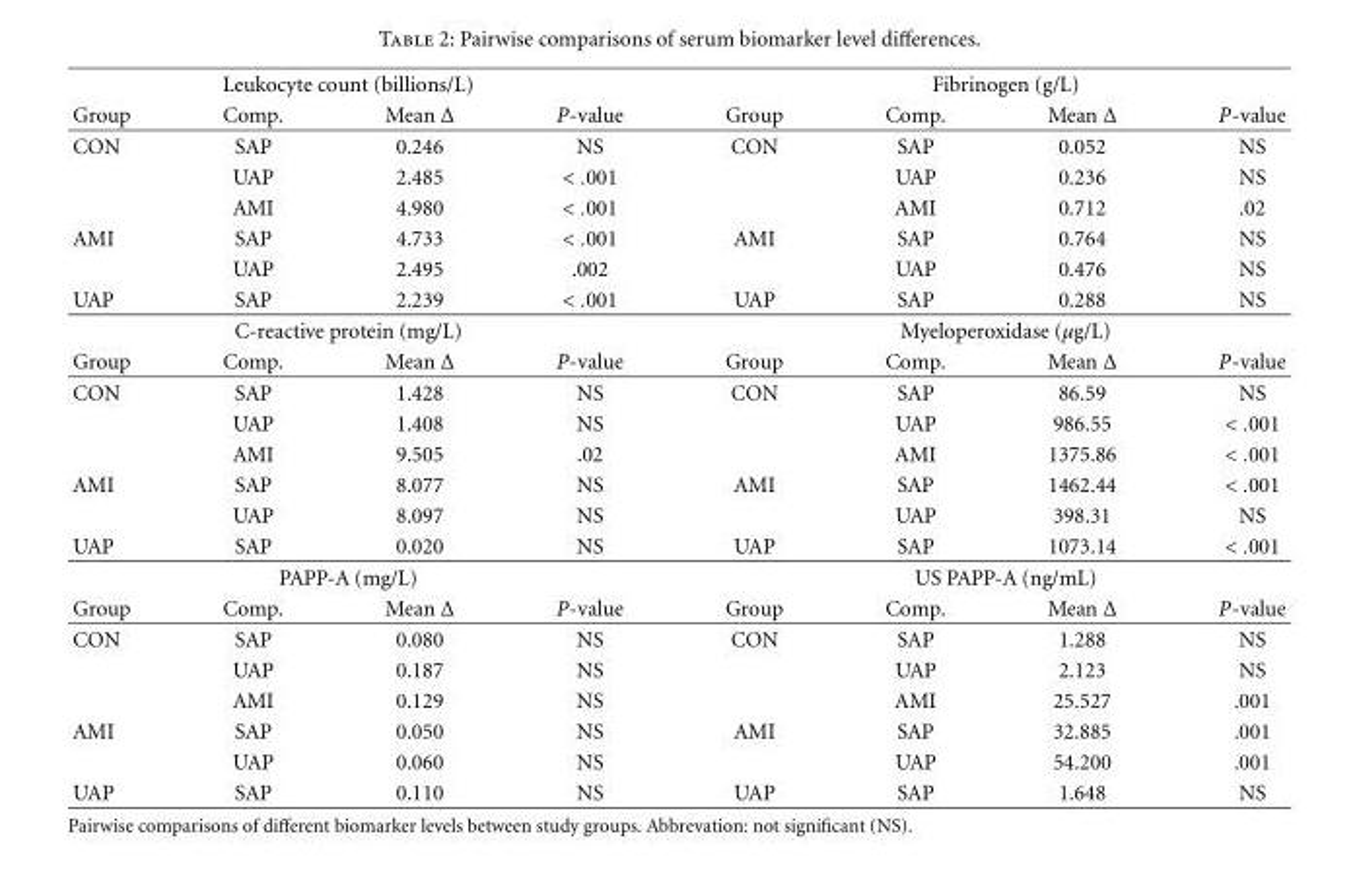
<table><thead><tr><td colspan="4">Leukocyte count (billions/L)</td><td colspan="4">Fibrinogen (g/L)</td></tr><tr><td>Group</td><td>Comp.</td><td>Mean Δ</td><td>P-value</td><td>Group</td><td>Comp.</td><td>Mean Δ</td><td>P-value</td></tr></thead><tbody><tr><td rowspan="3">CON</td><td>SAP</td><td>0.246</td><td>NS</td><td>CON</td><td>SAP</td><td>0.052</td><td>NS</td></tr><tr><td>UAP</td><td>2.485</td><td>&lt; .001</td><td></td><td>UAP</td><td>0.236</td><td>NS</td></tr><tr><td>AMI</td><td>4.980</td><td>&lt; .001</td><td></td><td>AMI</td><td>0.712</td><td>.02</td></tr><tr><td rowspan="2">AMI</td><td>SAP</td><td>4.733</td><td>&lt; .001</td><td>AMI</td><td>SAP</td><td>0.764</td><td>NS</td></tr><tr><td>UAP</td><td>2.495</td><td>.002</td><td></td><td>UAP</td><td>0.476</td><td>NS</td></tr><tr><td>UAP</td><td>SAP</td><td>2.239</td><td>&lt; .001</td><td>UAP</td><td>SAP</td><td>0.288</td><td>NS</td></tr><tr><td colspan="4">C-reactive protein (mg/L)</td><td colspan="4">Myeloperoxidase (µg/L)</td></tr><tr><td>Group</td><td>Comp.</td><td>Mean Δ</td><td>P-value</td><td>Group</td><td>Comp.</td><td>Mean Δ</td><td>P-value</td></tr><tr><td rowspan="3">CON</td><td>SAP</td><td>1.428</td><td>NS</td><td>CON</td><td>SAP</td><td>86.59</td><td>NS</td></tr><tr><td>UAP</td><td>1.408</td><td>NS</td><td></td><td>UAP</td><td>986.55</td><td>&lt; .001</td></tr><tr><td>AMI</td><td>9.505</td><td>.02</td><td></td><td>AMI</td><td>1375.86</td><td>&lt; .001</td></tr><tr><td rowspan="2">AMI</td><td>SAP</td><td>8.077</td><td>NS</td><td>AMI</td><td>SAP</td><td>1462.44</td><td>&lt; .001</td></tr><tr><td>UAP</td><td>8.097</td><td>NS</td><td></td><td>UAP</td><td>398.31</td><td>NS</td></tr><tr><td>UAP</td><td>SAP</td><td>0.020</td><td>NS</td><td>UAP</td><td>SAP</td><td>1073.14</td><td>&lt; .001</td></tr><tr><td colspan="4">PAPP-A (mg/L)</td><td colspan="4">US PAPP-A (ng/mL)</td></tr><tr><td>Group</td><td>Comp.</td><td>Mean Δ</td><td>P-value</td><td>Group</td><td>Comp.</td><td>Mean Δ</td><td>P-value</td></tr><tr><td rowspan="3">CON</td><td>SAP</td><td>0.080</td><td>NS</td><td>CON</td><td>SAP</td><td>1.288</td><td>NS</td></tr><tr><td>UAP</td><td>0.187</td><td>NS</td><td></td><td>UAP</td><td>2.123</td><td>NS</td></tr><tr><td>AMI</td><td>0.129</td><td>NS</td><td></td><td>AMI</td><td>25.527</td><td>.001</td></tr><tr><td rowspan="2">AMI</td><td>SAP</td><td>0.050</td><td>NS</td><td>AMI</td><td>SAP</td><td>32.885</td><td>.001</td></tr><tr><td>UAP</td><td>0.060</td><td>NS</td><td></td><td>UAP</td><td>54.200</td><td>.001</td></tr><tr><td>UAP</td><td>SAP</td><td>0.110</td><td>NS</td><td>UAP</td><td>SAP</td><td>1.648</td><td>NS</td></tr></tbody></table>